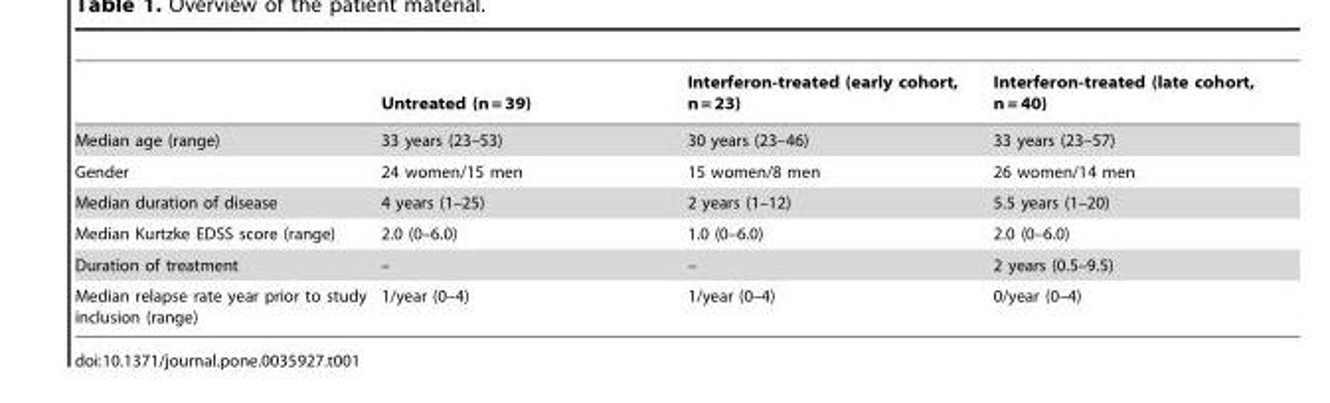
<table><thead><tr><td></td><td>Untreated (n = 39)</td><td>Interferon-treated (early cohort, n = 23)</td><td>Interferon-treated (late cohort, n = 40)</td></tr></thead><tbody><tr><td>Median age (range)</td><td>33 years (23–53)</td><td>30 years (23–46)</td><td>33 years (23–57)</td></tr><tr><td>Gender</td><td>24 women/15 men</td><td>15 women/8 men</td><td>26 women/14 men</td></tr><tr><td>Median duration of disease</td><td>4 years (1–25)</td><td>2 years (1–12)</td><td>5.5 years (1–20)</td></tr><tr><td>Median Kurtzke EDSS score (range)</td><td>2.0 (0–6.0)</td><td>1.0 (0–6.0)</td><td>2.0 (0–6.0)</td></tr><tr><td>Duration of treatment</td><td>–</td><td>–</td><td>2 years (0.5–9.5)</td></tr><tr><td>Median relapse rate year prior to study inclusion (range)</td><td>1/year (0–4)</td><td>1/year (0–4)</td><td>0/year (0–4)</td></tr></tbody></table>